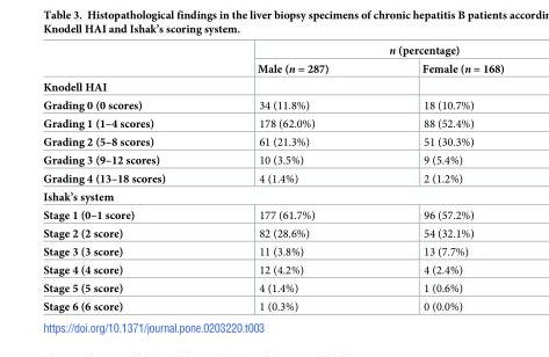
<table><thead><tr><td rowspan="2"></td><td colspan="2">n (percentage)</td></tr><tr><td>Male (n = 287)</td><td>Female (n = 168)</td></tr></thead><tbody><tr><td colspan="3">Knodell HAI</td></tr><tr><td>Grading 0 (0 scores)</td><td>34 (11.8%)</td><td>18 (10.7%)</td></tr><tr><td>Grading 1 (1–4 scores)</td><td>178 (62.0%)</td><td>88 (52.4%)</td></tr><tr><td>Grading 2 (5–8 scores)</td><td>61 (21.3%)</td><td>51 (30.3%)</td></tr><tr><td>Grading 3 (9–12 scores)</td><td>10 (3.5%)</td><td>9 (5.4%)</td></tr><tr><td>Grading 4 (13–18 scores)</td><td>4 (1.4%)</td><td>2 (1.2%)</td></tr><tr><td colspan="3">Ishak’s system</td></tr><tr><td>Stage 1 (0–1 score)</td><td>177 (61.7%)</td><td>96 (57.2%)</td></tr><tr><td>Stage 2 (2 score)</td><td>82 (28.6%)</td><td>54 (32.1%)</td></tr><tr><td>Stage 3 (3 score)</td><td>11 (3.8%)</td><td>13 (7.7%)</td></tr><tr><td>Stage 4 (4 score)</td><td>12 (4.2%)</td><td>4 (2.4%)</td></tr><tr><td>Stage 5 (5 score)</td><td>4 (1.4%)</td><td>1 (0.6%)</td></tr><tr><td>Stage 6 (6 score)</td><td>1 (0.3%)</td><td>0 (0.0%)</td></tr></tbody></table>